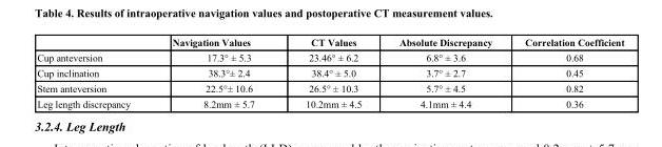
<table><thead><tr><td></td><td>Navigation Values</td><td>CT Values</td><td>Absolute Discrepancy</td><td>Correlation Coefficient</td></tr></thead><tbody><tr><td>Cup anteversion</td><td>17.3° ± 5.3</td><td>23.46° ± 6.2</td><td>6.8° ± 3.6</td><td>0.68</td></tr><tr><td>Cup inclination</td><td>38.3°± 2.4</td><td>38.4° ± 5.0</td><td>3.7° ± 2.7</td><td>0.45</td></tr><tr><td>Stem anteversion</td><td>22.5°± 10.6</td><td>26.5° ± 10.3</td><td>5.7° ± 4.5</td><td>0.82</td></tr><tr><td>Leg length discrepancy</td><td>8.2mm ± 5.7</td><td>10.2mm ± 4.5</td><td>4.1mm ± 4.4</td><td>0.36</td></tr></tbody></table>